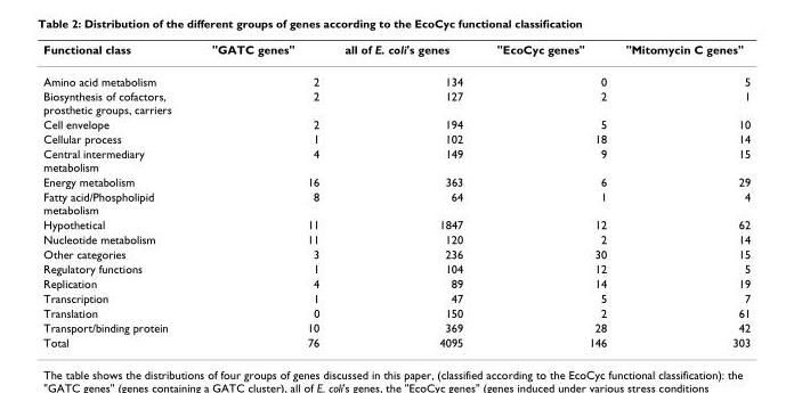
<table><thead><tr><td>Functional class</td><td>&quot;GATC genes&quot;</td><td>all of E. coli&#x27;s genes</td><td>&quot;EcoCyc genes&quot;</td><td>&quot;Mitomycin C genes&quot;</td></tr></thead><tbody><tr><td>Amino acid metabolism</td><td>2</td><td>134</td><td>0</td><td>5</td></tr><tr><td>Biosynthesis of cofactors, prosthetic groups, carriers</td><td>2</td><td>127</td><td>2</td><td>1</td></tr><tr><td>Cell envelope</td><td>2</td><td>194</td><td>5</td><td>10</td></tr><tr><td>Cellular process</td><td>1</td><td>102</td><td>18</td><td>14</td></tr><tr><td>Central intermediary metabolism</td><td>4</td><td>149</td><td>9</td><td>15</td></tr><tr><td>Energy metabolism</td><td>16</td><td>363</td><td>6</td><td>29</td></tr><tr><td>Fatty acid/Phospholipid metabolism</td><td>8</td><td>64</td><td>1</td><td>4</td></tr><tr><td>Hypothetical</td><td>11</td><td>1847</td><td>12</td><td>62</td></tr><tr><td>Nucleotide metabolism</td><td>11</td><td>120</td><td>2</td><td>14</td></tr><tr><td>Other categories</td><td>3</td><td>236</td><td>30</td><td>15</td></tr><tr><td>Regulatory functions</td><td>1</td><td>104</td><td>12</td><td>5</td></tr><tr><td>Replication</td><td>4</td><td>89</td><td>14</td><td>19</td></tr><tr><td>Transcription</td><td>1</td><td>47</td><td>5</td><td>7</td></tr><tr><td>Translation</td><td>0</td><td>150</td><td>2</td><td>61</td></tr><tr><td>Transport/binding protein</td><td>10</td><td>369</td><td>28</td><td>42</td></tr><tr><td>Total</td><td>76</td><td>4095</td><td>146</td><td>303</td></tr></tbody></table>